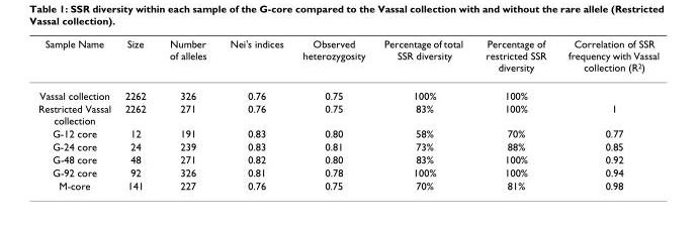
<table><thead><tr><td>Sample Name</td><td>Size</td><td>Number of alleles</td><td>Nei&#x27;s indices</td><td>Observed heterozygosity</td><td>Percentage of total SSR diversity</td><td>Percentage of restricted SSR diversity</td><td>Correlation of SSR frequency with Vassal collection (R<sup>2</sup>)</td></tr></thead><tbody><tr><td>Vassal collection</td><td>2262</td><td>326</td><td>0.76</td><td>0.75</td><td>100%</td><td>100%</td><td></td></tr><tr><td>Restricted Vassal collection</td><td>2262</td><td>271</td><td>0.76</td><td>0.75</td><td>83%</td><td>100%</td><td>1</td></tr><tr><td>G-12 core</td><td>12</td><td>191</td><td>0.83</td><td>0.80</td><td>58%</td><td>70%</td><td>0.77</td></tr><tr><td>G-24 core</td><td>24</td><td>239</td><td>0.83</td><td>0.81</td><td>73%</td><td>88%</td><td>0.85</td></tr><tr><td>G-48 core</td><td>48</td><td>271</td><td>0.82</td><td>0.80</td><td>83%</td><td>100%</td><td>0.92</td></tr><tr><td>G-92 core</td><td>92</td><td>326</td><td>0.81</td><td>0.78</td><td>100%</td><td>100%</td><td>0.94</td></tr><tr><td>M-core</td><td>141</td><td>227</td><td>0.76</td><td>0.75</td><td>70%</td><td>81%</td><td>0.98</td></tr></tbody></table>